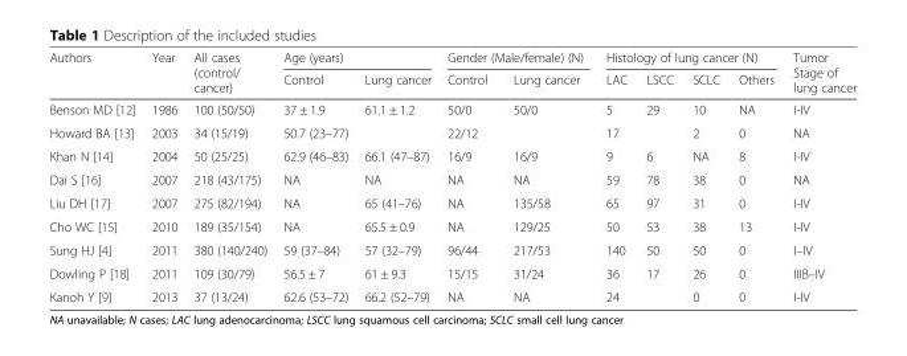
<table><thead><tr><td rowspan="2">Authors</td><td rowspan="2">Year</td><td rowspan="2">All cases (control/ cancer)</td><td colspan="2">Age (years)</td><td colspan="2">Gender (Male/female) (N)</td><td colspan="4">Histology of lung cancer (N)</td><td rowspan="2">Tumor Stage of lung cancer</td></tr><tr><td>Control</td><td>Lung cancer</td><td>Control</td><td>Lung cancer</td><td>LAC</td><td>LSCC</td><td>SCLC</td><td>Others</td></tr></thead><tbody><tr><td>Benson MD [12]</td><td>1986</td><td>100 (50/50)</td><td>37 ± 1.9</td><td>61.1 ± 1.2</td><td>50/0</td><td>50/0</td><td>5</td><td>29</td><td>10</td><td>NA</td><td>I-IV</td></tr><tr><td>Howard BA [13]</td><td>2003</td><td>34 (15/19)</td><td colspan="2">50.7 (23–77)</td><td colspan="2">22/12</td><td colspan="2">17</td><td>2</td><td>0</td><td>NA</td></tr><tr><td>Khan N [14]</td><td>2004</td><td>50 (25/25)</td><td>62.9 (46–83)</td><td>66.1 (47–87)</td><td>16/9</td><td>16/9</td><td>9</td><td>6</td><td>NA</td><td>8</td><td>I-IV</td></tr><tr><td>Dai S [16]</td><td>2007</td><td>218 (43/175)</td><td>NA</td><td>NA</td><td>NA</td><td>NA</td><td>59</td><td>78</td><td>38</td><td>0</td><td>NA</td></tr><tr><td>Liu DH [17]</td><td>2007</td><td>275 (82/194)</td><td>NA</td><td>65 (41–76)</td><td>NA</td><td>135/58</td><td>65</td><td>97</td><td>31</td><td>0</td><td>I-IV</td></tr><tr><td>Cho WC [15]</td><td>2010</td><td>189 (35/154)</td><td>NA</td><td>65.5 ± 0.9</td><td>NA</td><td>129/25</td><td>50</td><td>53</td><td>38</td><td>13</td><td>I-IV</td></tr><tr><td>Sung HJ [4]</td><td>2011</td><td>380 (140/240)</td><td>59 (37–84)</td><td>57 (32–79)</td><td>96/44</td><td>217/53</td><td>140</td><td>50</td><td>50</td><td>0</td><td>I–IV</td></tr><tr><td>Dowling P [18]</td><td>2011</td><td>109 (30/79)</td><td>56.5 ± 7</td><td>61 ± 9.3</td><td>15/15</td><td>31/24</td><td>36</td><td>17</td><td>26</td><td>0</td><td>IIIB–IV</td></tr><tr><td>Kanoh Y [9]</td><td>2013</td><td>37 (13/24)</td><td>62.6 (53–72)</td><td>66.2 (52–79)</td><td>NA</td><td>NA</td><td colspan="2">24</td><td>0</td><td>0</td><td>I-IV</td></tr></tbody></table>